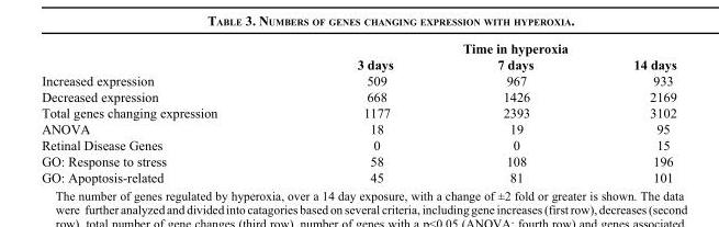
<table><thead><tr><td rowspan="2"></td><td colspan="3">Time in hyperoxia</td></tr><tr><td>3 days</td><td>7 days</td><td>14 days</td></tr></thead><tbody><tr><td>Increased expression</td><td>509</td><td>967</td><td>933</td></tr><tr><td>Decreased expression</td><td>668</td><td>1426</td><td>2169</td></tr><tr><td>Total genes changing expression</td><td>1177</td><td>2393</td><td>3102</td></tr><tr><td>ANOVA</td><td>18</td><td>19</td><td>95</td></tr><tr><td>Retinal Disease Genes</td><td>0</td><td>0</td><td>15</td></tr><tr><td>GO: Response to stress</td><td>58</td><td>108</td><td>196</td></tr><tr><td>GO: Apoptosis-related</td><td>45</td><td>81</td><td>101</td></tr></tbody></table>